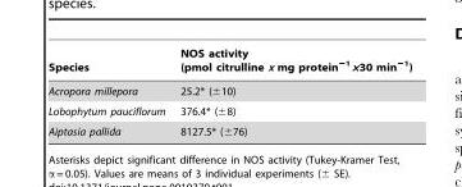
<table><thead><tr><td>Species</td><td>NOS activity (pmol citrulline x mg protein<sup>−1</sup>×30 min<sup>−1</sup>)</td></tr></thead><tbody><tr><td>Acropora millepora</td><td>25.2* (±10)</td></tr><tr><td>Lobophytum pauciflorum</td><td>376.4* (±8)</td></tr><tr><td>Aiptasia pallida</td><td>8127.5* (±76)</td></tr></tbody></table>